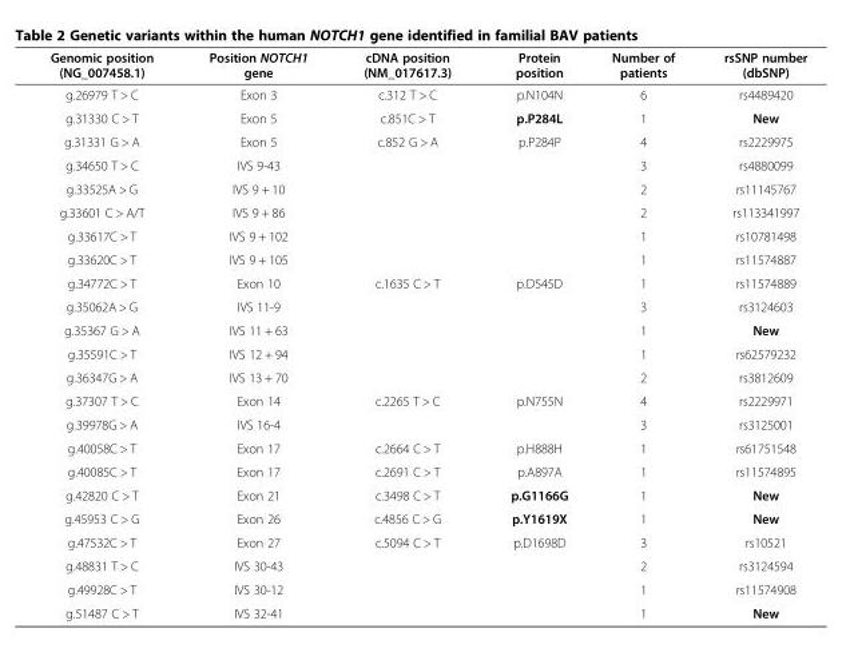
<table><thead><tr><td>Genomic position (NG_007458.1)</td><td>Position NOTCH1 gene</td><td>cDNA position (NM_017617.3)</td><td>Protein position</td><td>Number of patients</td><td>rsSNP number (dbSNP)</td></tr></thead><tbody><tr><td>g.26979 T &gt; C</td><td>Exon 3</td><td>c.312 T &gt; C</td><td>p.N104N</td><td>6</td><td>rs4489420</td></tr><tr><td>g.31330 C &gt; T</td><td>Exon 5</td><td>c.851C &gt; T</td><td>p.P284L</td><td>1</td><td>New</td></tr><tr><td>g.31331 G &gt; A</td><td>Exon 5</td><td>c.852 G &gt; A</td><td>p.P284P</td><td>4</td><td>rs2229975</td></tr><tr><td>g.34650 T &gt; C</td><td>IVS 9-43</td><td></td><td></td><td>3</td><td>rs4880099</td></tr><tr><td>g.33525A &gt; G</td><td>IVS 9 + 10</td><td></td><td></td><td>2</td><td>rs11145767</td></tr><tr><td>g.33601 C &gt; A/T</td><td>IVS 9 + 86</td><td></td><td></td><td>2</td><td>rs113341997</td></tr><tr><td>g.33617C &gt; T</td><td>IVS 9 + 102</td><td></td><td></td><td>1</td><td>rs10781498</td></tr><tr><td>g.33620C &gt; T</td><td>IVS 9 + 105</td><td></td><td></td><td>1</td><td>rs11574887</td></tr><tr><td>g.34772C &gt; T</td><td>Exon 10</td><td>c.1635 C &gt; T</td><td>p.D545D</td><td>1</td><td>rs11574889</td></tr><tr><td>g.35062A &gt; G</td><td>IVS 11-9</td><td></td><td></td><td>3</td><td>rs3124603</td></tr><tr><td>g.35367 G &gt; A</td><td>IVS 11 + 63</td><td></td><td></td><td>1</td><td>New</td></tr><tr><td>g.35591C &gt; T</td><td>IVS 12 + 94</td><td></td><td></td><td>1</td><td>rs62579232</td></tr><tr><td>g.36347G &gt; A</td><td>IVS 13 + 70</td><td></td><td></td><td>2</td><td>rs3812609</td></tr><tr><td>g.37307 T &gt; C</td><td>Exon 14</td><td>c.2265 T &gt; C</td><td>p.N755N</td><td>4</td><td>rs2229971</td></tr><tr><td>g.39978G &gt; A</td><td>IVS 16-4</td><td></td><td></td><td>3</td><td>rs3125001</td></tr><tr><td>g.40058C &gt; T</td><td>Exon 17</td><td>c.2664 C &gt; T</td><td>p.H888H</td><td>1</td><td>rs61751548</td></tr><tr><td>g.40085C &gt; T</td><td>Exon 17</td><td>c.2691 C &gt; T</td><td>p.A897A</td><td>1</td><td>rs11574895</td></tr><tr><td>g.42820 C &gt; T</td><td>Exon 21</td><td>c.3498 C &gt; T</td><td>p.G1166G</td><td>1</td><td>New</td></tr><tr><td>g.45953 C &gt; G</td><td>Exon 26</td><td>c.4856 C &gt; G</td><td>p.Y1619X</td><td>1</td><td>New</td></tr><tr><td>g.47532C &gt; T</td><td>Exon 27</td><td>c.5094 C &gt; T</td><td>p.D1698D</td><td>3</td><td>rs10521</td></tr><tr><td>g.48831 T &gt; C</td><td>IVS 30-43</td><td></td><td></td><td>2</td><td>rs3124594</td></tr><tr><td>g.49928C &gt; T</td><td>IVS 30-12</td><td></td><td></td><td>1</td><td>rs11574908</td></tr><tr><td>g.51487 C &gt; T</td><td>IVS 32-41</td><td></td><td></td><td>1</td><td>New</td></tr></tbody></table>